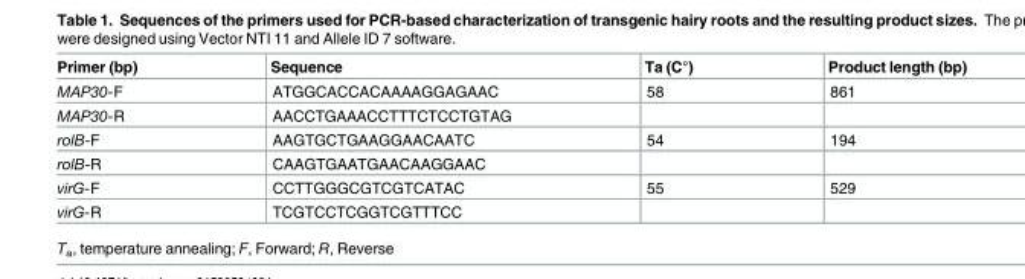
<table><thead><tr><td>Primer (bp)</td><td>Sequence</td><td>Ta (C°)</td><td>Product length (bp)</td></tr></thead><tbody><tr><td>MAP30-F</td><td>ATGGCACCACAAAAGGAGAAC</td><td>58</td><td>861</td></tr><tr><td>MAP30-R</td><td>AACCTGAAACCTTTCTCCTGTAG</td><td></td><td></td></tr><tr><td>rolB-F</td><td>AAGTGCTGAAGGAACAATC</td><td>54</td><td>194</td></tr><tr><td>rolB-R</td><td>CAAGTGAATGAACAAGGAAC</td><td></td><td></td></tr><tr><td>virG-F</td><td>CCTTGGGCGTCGTCATAC</td><td>55</td><td>529</td></tr><tr><td>virG-R</td><td>TCGTCCTCGGTCGTTTCC</td><td></td><td></td></tr></tbody></table>